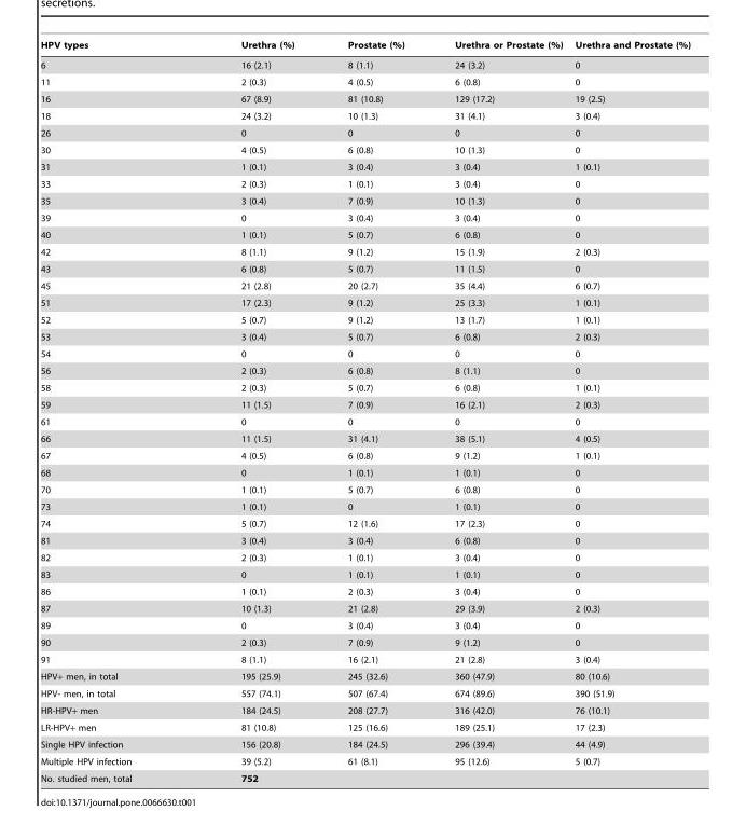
<table><thead><tr><td>HPV types</td><td>Urethra (%)</td><td>Prostate (%)</td><td>Urethra or Prostate (%)</td><td>Urethra and Prostate (%)</td></tr></thead><tbody><tr><td>6</td><td>16 (2.1)</td><td>8 (1.1)</td><td>24 (3.2)</td><td>0</td></tr><tr><td>11</td><td>2 (0.3)</td><td>4 (0.5)</td><td>6 (0.8)</td><td>0</td></tr><tr><td>16</td><td>67 (8.9)</td><td>81 (10.8)</td><td>129 (17.2)</td><td>19 (2.5)</td></tr><tr><td>18</td><td>24 (3.2)</td><td>10 (1.3)</td><td>31 (4.1)</td><td>3 (0.4)</td></tr><tr><td>26</td><td>0</td><td>0</td><td>0</td><td>0</td></tr><tr><td>30</td><td>4 (0.5)</td><td>6 (0.8)</td><td>10 (1.3)</td><td>0</td></tr><tr><td>31</td><td>1 (0.1)</td><td>3 (0.4)</td><td>3 (0.4)</td><td>1 (0.1)</td></tr><tr><td>33</td><td>2 (0.3)</td><td>1 (0.1)</td><td>3 (0.4)</td><td>0</td></tr><tr><td>35</td><td>3 (0.4)</td><td>7 (0.9)</td><td>10 (1.3)</td><td>0</td></tr><tr><td>39</td><td>0</td><td>3 (0.4)</td><td>3 (0.4)</td><td>0</td></tr><tr><td>40</td><td>1 (0.1)</td><td>5 (0.7)</td><td>6 (0.8)</td><td>0</td></tr><tr><td>42</td><td>8 (1.1)</td><td>9 (1.2)</td><td>15 (1.9)</td><td>2 (0.3)</td></tr><tr><td>43</td><td>6 (0.8)</td><td>5 (0.7)</td><td>11 (1.5)</td><td>0</td></tr><tr><td>45</td><td>21 (2.8)</td><td>20 (2.7)</td><td>35 (4.4)</td><td>6 (0.7)</td></tr><tr><td>51</td><td>17 (2.3)</td><td>9 (1.2)</td><td>25 (3.3)</td><td>1 (0.1)</td></tr><tr><td>52</td><td>5 (0.7)</td><td>9 (1.2)</td><td>13 (1.7)</td><td>1 (0.1)</td></tr><tr><td>53</td><td>3 (0.4)</td><td>5 (0.7)</td><td>6 (0.8)</td><td>2 (0.3)</td></tr><tr><td>54</td><td>0</td><td>0</td><td>0</td><td>0</td></tr><tr><td>56</td><td>2 (0.3)</td><td>6 (0.8)</td><td>8 (1.1)</td><td>0</td></tr><tr><td>58</td><td>2 (0.3)</td><td>5 (0.7)</td><td>6 (0.8)</td><td>1 (0.1)</td></tr><tr><td>59</td><td>11 (1.5)</td><td>7 (0.9)</td><td>16 (2.1)</td><td>2 (0.3)</td></tr><tr><td>61</td><td>0</td><td>0</td><td>0</td><td>0</td></tr><tr><td>66</td><td>11 (1.5)</td><td>31 (4.1)</td><td>38 (5.1)</td><td>4 (0.5)</td></tr><tr><td>67</td><td>4 (0.5)</td><td>6 (0.8)</td><td>9 (1.2)</td><td>1 (0.1)</td></tr><tr><td>68</td><td>0</td><td>1 (0.1)</td><td>1 (0.1)</td><td>0</td></tr><tr><td>70</td><td>1 (0.1)</td><td>5 (0.7)</td><td>6 (0.8)</td><td>0</td></tr><tr><td>73</td><td>1 (0.1)</td><td>0</td><td>1 (0.1)</td><td>0</td></tr><tr><td>74</td><td>5 (0.7)</td><td>12 (1.6)</td><td>17 (2.3)</td><td>0</td></tr><tr><td>81</td><td>3 (0.4)</td><td>3 (0.4)</td><td>6 (0.8)</td><td>0</td></tr><tr><td>82</td><td>2 (0.3)</td><td>1 (0.1)</td><td>3 (0.4)</td><td>0</td></tr><tr><td>83</td><td>0</td><td>1 (0.1)</td><td>1 (0.1)</td><td>0</td></tr><tr><td>86</td><td>1 (0.1)</td><td>2 (0.3)</td><td>3 (0.4)</td><td>0</td></tr><tr><td>87</td><td>10 (1.3)</td><td>21 (2.8)</td><td>29 (3.9)</td><td>2 (0.3)</td></tr><tr><td>89</td><td>0</td><td>3 (0.4)</td><td>3 (0.4)</td><td>0</td></tr><tr><td>90</td><td>2 (0.3)</td><td>7 (0.9)</td><td>9 (1.2)</td><td>0</td></tr><tr><td>91</td><td>8 (1.1)</td><td>16 (2.1)</td><td>21 (2.8)</td><td>3 (0.4)</td></tr><tr><td>HPV+ men, in total</td><td>195 (25.9)</td><td>245 (32.6)</td><td>360 (47.9)</td><td>80 (10.6)</td></tr><tr><td>HPV- men, in total</td><td>557 (74.1)</td><td>507 (67.4)</td><td>674 (89.6)</td><td>390 (51.9)</td></tr><tr><td>HR-HPV+ men</td><td>184 (24.5)</td><td>208 (27.7)</td><td>316 (42.0)</td><td>76 (10.1)</td></tr><tr><td>LR-HPV+ men</td><td>81 (10.8)</td><td>125 (16.6)</td><td>189 (25.1)</td><td>17 (2.3)</td></tr><tr><td>Single HPV infection</td><td>156 (20.8)</td><td>184 (24.5)</td><td>296 (39.4)</td><td>44 (4.9)</td></tr><tr><td>Multiple HPV infection</td><td>39 (5.2)</td><td>61 (8.1)</td><td>95 (12.6)</td><td>5 (0.7)</td></tr><tr><td>No. studied men, total</td><td colspan="4">752</td></tr></tbody></table>